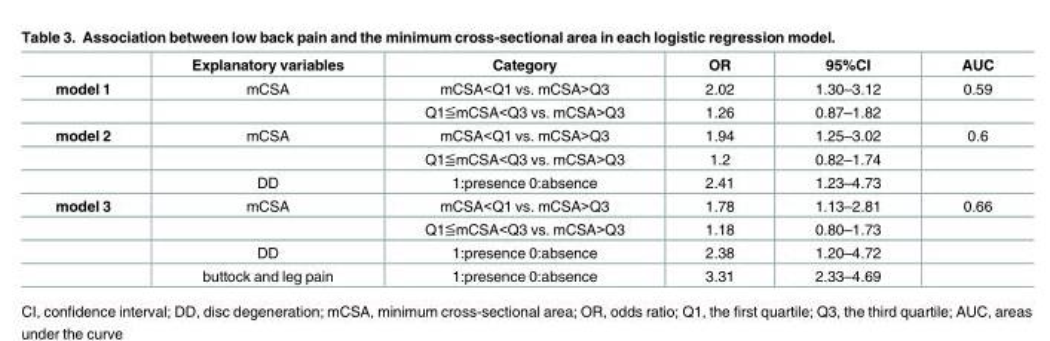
<table><thead><tr><td></td><td>Explanatory variables</td><td>Category</td><td>OR</td><td>95%CI</td><td>AUC</td></tr></thead><tbody><tr><td rowspan="2">model 1</td><td>mCSA</td><td>mCSA&lt;Q1 vs. mCSA&gt;Q3</td><td>2.02</td><td>1.30–3.12</td><td>0.59</td></tr><tr><td></td><td>Q1≦mCSA&lt;Q3 vs. mCSA&gt;Q3</td><td>1.26</td><td>0.87–1.82</td><td></td></tr><tr><td rowspan="3">model 2</td><td>mCSA</td><td>mCSA&lt;Q1 vs. mCSA&gt;Q3</td><td>1.94</td><td>1.25–3.02</td><td>0.6</td></tr><tr><td></td><td>Q1≦mCSA&lt;Q3 vs. mCSA&gt;Q3</td><td>1.2</td><td>0.82–1.74</td><td></td></tr><tr><td>DD</td><td>1:presence 0:absence</td><td>2.41</td><td>1.23–4.73</td><td></td></tr><tr><td rowspan="4">model 3</td><td>mCSA</td><td>mCSA&lt;Q1 vs. mCSA&gt;Q3</td><td>1.78</td><td>1.13–2.81</td><td>0.66</td></tr><tr><td></td><td>Q1≦mCSA&lt;Q3 vs. mCSA&gt;Q3</td><td>1.18</td><td>0.80–1.73</td><td></td></tr><tr><td>DD</td><td>1:presence 0:absence</td><td>2.38</td><td>1.20–4.72</td><td></td></tr><tr><td>buttock and leg pain</td><td>1:presence 0:absence</td><td>3.31</td><td>2.33–4.69</td><td></td></tr></tbody></table>